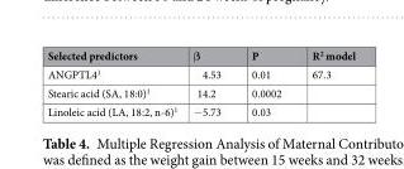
<table><thead><tr><td>Selected predictors</td><td>β</td><td>P</td><td>R<sup>2</sup> model</td></tr></thead><tbody><tr><td>ANGPTL4<sup>1</sup></td><td>4.53</td><td>0.01</td><td>67.3</td></tr><tr><td>Stearic acid (SA, 18:0)<sup>1</sup></td><td>14.2</td><td>0.0002</td><td></td></tr><tr><td>Linoleic acid (LA, 18:2, n-6)<sup>1</sup></td><td>−5.73</td><td>0.03</td><td></td></tr></tbody></table>